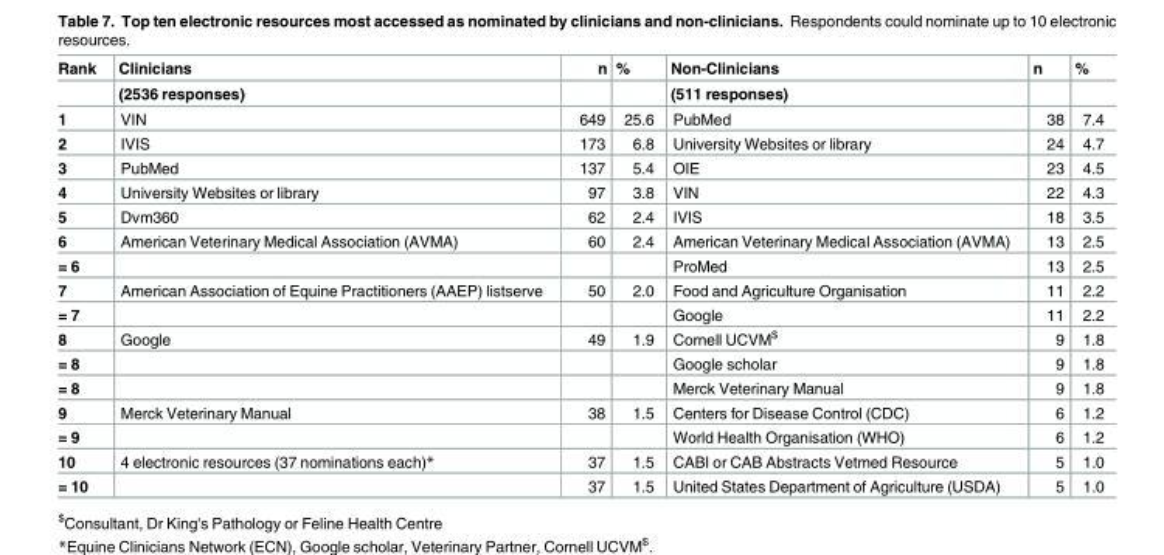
<table><thead><tr><td rowspan="2">Rank</td><td rowspan="2">Clinicians (2536 responses)</td><td rowspan="2">n</td><td rowspan="2">%</td><td rowspan="2">Non-Clinicians (511 responses)</td><td rowspan="2">n</td><td rowspan="2">%</td></tr><tr></tr></thead><tbody><tr><td>1</td><td>VIN</td><td>649</td><td>25.6</td><td>PubMed</td><td>38</td><td>7.4</td></tr><tr><td>2</td><td>IVIS</td><td>173</td><td>6.8</td><td>University Websites or library</td><td>24</td><td>4.7</td></tr><tr><td>3</td><td>PubMed</td><td>137</td><td>5.4</td><td>OIE</td><td>23</td><td>4.5</td></tr><tr><td>4</td><td>University Websites or library</td><td>97</td><td>3.8</td><td>VIN</td><td>22</td><td>4.3</td></tr><tr><td>5</td><td>Dvm360</td><td>62</td><td>2.4</td><td>IVIS</td><td>18</td><td>3.5</td></tr><tr><td>6</td><td>American Veterinary Medical Association (AVMA)</td><td>60</td><td>2.4</td><td>American Veterinary Medical Association (AVMA)</td><td>13</td><td>2.5</td></tr><tr><td>= 6</td><td></td><td></td><td></td><td>ProMed</td><td>13</td><td>2.5</td></tr><tr><td>7</td><td>American Association of Equine Practitioners (AAEP) listserve</td><td>50</td><td>2.0</td><td>Food and Agriculture Organisation</td><td>11</td><td>2.2</td></tr><tr><td>= 7</td><td></td><td></td><td></td><td>Google</td><td>11</td><td>2.2</td></tr><tr><td>8</td><td>Google</td><td>49</td><td>1.9</td><td>Cornell UCVM<sup>$</sup></td><td>9</td><td>1.8</td></tr><tr><td>= 8</td><td></td><td></td><td></td><td>Google scholar</td><td>9</td><td>1.8</td></tr><tr><td>= 8</td><td></td><td></td><td></td><td>Merck Veterinary Manual</td><td>9</td><td>1.8</td></tr><tr><td>9</td><td>Merck Veterinary Manual</td><td>38</td><td>1.5</td><td>Centers for Disease Control (CDC)</td><td>6</td><td>1.2</td></tr><tr><td>= 9</td><td></td><td></td><td></td><td>World Health Organisation (WHO)</td><td>6</td><td>1.2</td></tr><tr><td>10</td><td>4 electronic resources (37 nominations each)*</td><td>37</td><td>1.5</td><td>CABI or CAB Abstracts Vetmed Resource</td><td>5</td><td>1.0</td></tr><tr><td>= 10</td><td></td><td>37</td><td>1.5</td><td>United States Department of Agriculture (USDA)</td><td>5</td><td>1.0</td></tr></tbody></table>